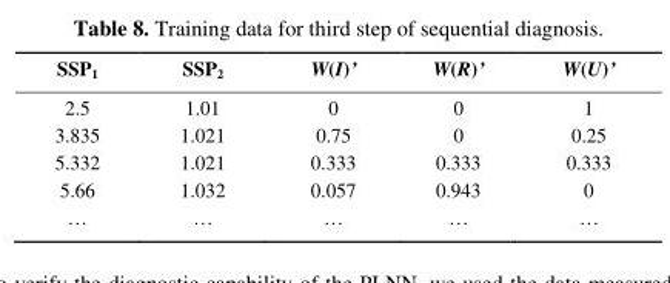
<table><thead><tr><td>SSP<sub>1</sub></td><td>SSP<sub>2</sub></td><td>W(I)’</td><td>W(R)’</td><td>W(U)’</td></tr></thead><tbody><tr><td>2.5</td><td>1.01</td><td>0</td><td>0</td><td>1</td></tr><tr><td>3.835</td><td>1.021</td><td>0.75</td><td>0</td><td>0.25</td></tr><tr><td>5.332</td><td>1.021</td><td>0.333</td><td>0.333</td><td>0.333</td></tr><tr><td>5.66</td><td>1.032</td><td>0.057</td><td>0.943</td><td>0</td></tr><tr><td>…</td><td>…</td><td>…</td><td>…</td><td>…</td></tr></tbody></table>